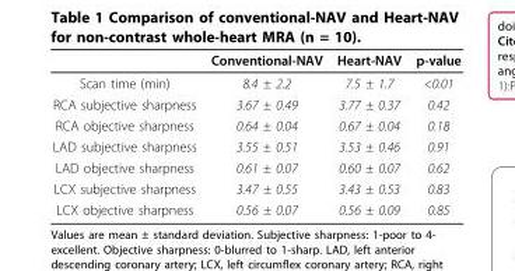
<table><thead><tr><td></td><td>Conventional-NAV</td><td>Heart-NAV</td><td>p-value</td></tr></thead><tbody><tr><td>Scan time (min)</td><td>8.4 ± 2.2</td><td>7.5 ± 1.7</td><td>&lt;0.01</td></tr><tr><td>RCA subjective sharpness</td><td>3.67 ± 0.49</td><td>3.77 ± 0.37</td><td>0.42</td></tr><tr><td>RCA objective sharpness</td><td>0.64 ± 0.04</td><td>0.67 ± 0.04</td><td>0.18</td></tr><tr><td>LAD subjective sharpness</td><td>3.55 ± 0.51</td><td>3.53 ± 0.46</td><td>0.91</td></tr><tr><td>LAD objective sharpness</td><td>0.61 ± 0.07</td><td>0.60 ± 0.07</td><td>0.62</td></tr><tr><td>LCX subjective sharpness</td><td>3.47 ± 0.55</td><td>3.43 ± 0.53</td><td>0.83</td></tr><tr><td>LCX objective sharpness</td><td>0.56 ± 0.07</td><td>0.56 ± 0.09</td><td>0.85</td></tr></tbody></table>